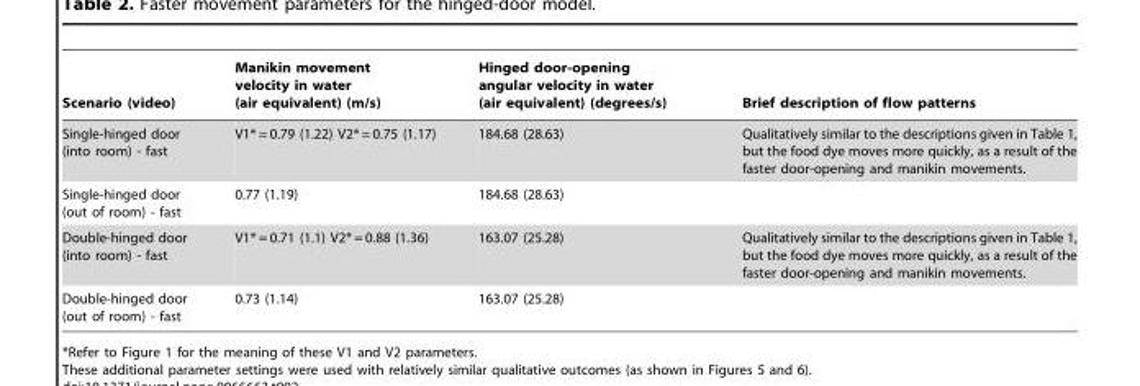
<table><thead><tr><td>Scenario (video)</td><td>Manikin movement velocity in water (air equivalent) (m/s)</td><td>Hinged door-opening angular velocity in water (air equivalent) (degrees/s)</td><td>Brief description of flow patterns</td></tr></thead><tbody><tr><td>Single-hinged door (into room) - fast</td><td>V1* = 0.79 (1.22) V2* = 0.75 (1.17)</td><td>184.68 (28.63)</td><td>Qualitatively similar to the descriptions given in Table 1, but the food dye moves more quickly, as a result of the faster door-opening and manikin movements.</td></tr><tr><td>Single-hinged door (out of room) - fast</td><td>0.77 (1.19)</td><td>184.68 (28.63)</td><td></td></tr><tr><td>Double-hinged door (into room) - fast</td><td>V1* = 0.71 (1.1) V2* = 0.88 (1.36)</td><td>163.07 (25.28)</td><td>Qualitatively similar to the descriptions given in Table 1, but the food dye moves more quickly, as a result of the faster door-opening and manikin movements.</td></tr><tr><td>Double-hinged door (out of room) - fast</td><td>0.73 (1.14)</td><td>163.07 (25.28)</td><td></td></tr></tbody></table>